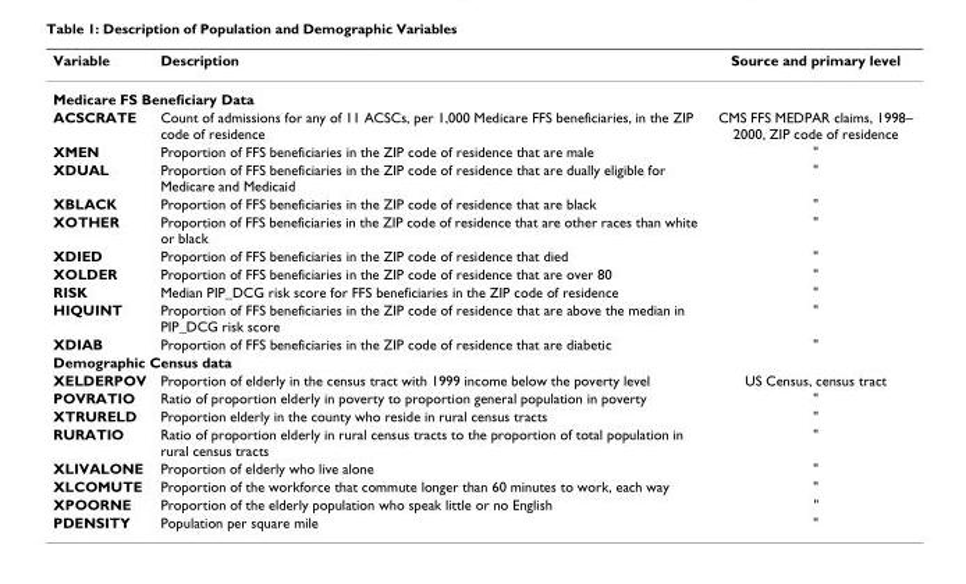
<table><thead><tr><td>Variable</td><td>Description</td><td>Source and primary level</td></tr></thead><tbody><tr><td colspan="3">Medicare FS Beneficiary Data</td></tr><tr><td>ACSCRATE</td><td>Count of admissions for any of 11 ACSCs, per 1,000 Medicare FFS beneficiaries, in the ZIP code of residence</td><td>CMS FFS MEDPAR claims, 1998– 2000, ZIP code of residence</td></tr><tr><td>XMEN</td><td>Proportion of FFS beneficiaries in the ZIP code of residence that are male</td><td>&quot;</td></tr><tr><td>XDUAL</td><td>Proportion of FFS beneficiaries in the ZIP code of residence that are dually eligible for Medicare and Medicaid</td><td>&quot;</td></tr><tr><td>XBLACK</td><td>Proportion of FFS beneficiaries in the ZIP code of residence that are black</td><td>&quot;</td></tr><tr><td>XOTHER</td><td>Proportion of FFS beneficiaries in the ZIP code of residence that are other races than white or black</td><td>&quot;</td></tr><tr><td>XDIED</td><td>Proportion of FFS beneficiaries in the ZIP code of residence that died</td><td>&quot;</td></tr><tr><td>XOLDER</td><td>Proportion of FFS beneficiaries in the ZIP code of residence that are over 80</td><td>&quot;</td></tr><tr><td>RISK</td><td>Median PIP_DCG risk score for FFS beneficiaries in the ZIP code of residence</td><td>&quot;</td></tr><tr><td>HIQUINT</td><td>Proportion of FFS beneficiaries in the ZIP code of residence that are above the median in PIP_DCG risk score</td><td>&quot;</td></tr><tr><td>XDIAB</td><td>Proportion of FFS beneficiaries in the ZIP code of residence that are diabetic</td><td>&quot;</td></tr><tr><td colspan="3">Demographic Census data</td></tr><tr><td>XELDERPOV</td><td>Proportion of elderly in the census tract with 1999 income below the poverty level</td><td>US Census, census tract</td></tr><tr><td>POVRATIO</td><td>Ratio of proportion elderly in poverty to proportion general population in poverty</td><td>&quot;</td></tr><tr><td>XTRURELD</td><td>Proportion elderly in the county who reside in rural census tracts</td><td>&quot;</td></tr><tr><td>RURATIO</td><td>Ratio of proportion elderly in rural census tracts to the proportion of total population in rural census tracts</td><td>&quot;</td></tr><tr><td>XLIVALONE</td><td>Proportion of elderly who live alone</td><td>&quot;</td></tr><tr><td>XLCOMUTE</td><td>Proportion of the workforce that commute longer than 60 minutes to work, each way</td><td>&quot;</td></tr><tr><td>XPOORNE</td><td>Proportion of the elderly population who speak little or no English</td><td>&quot;</td></tr><tr><td>PDENSITY</td><td>Population per square mile</td><td>&quot;</td></tr></tbody></table>